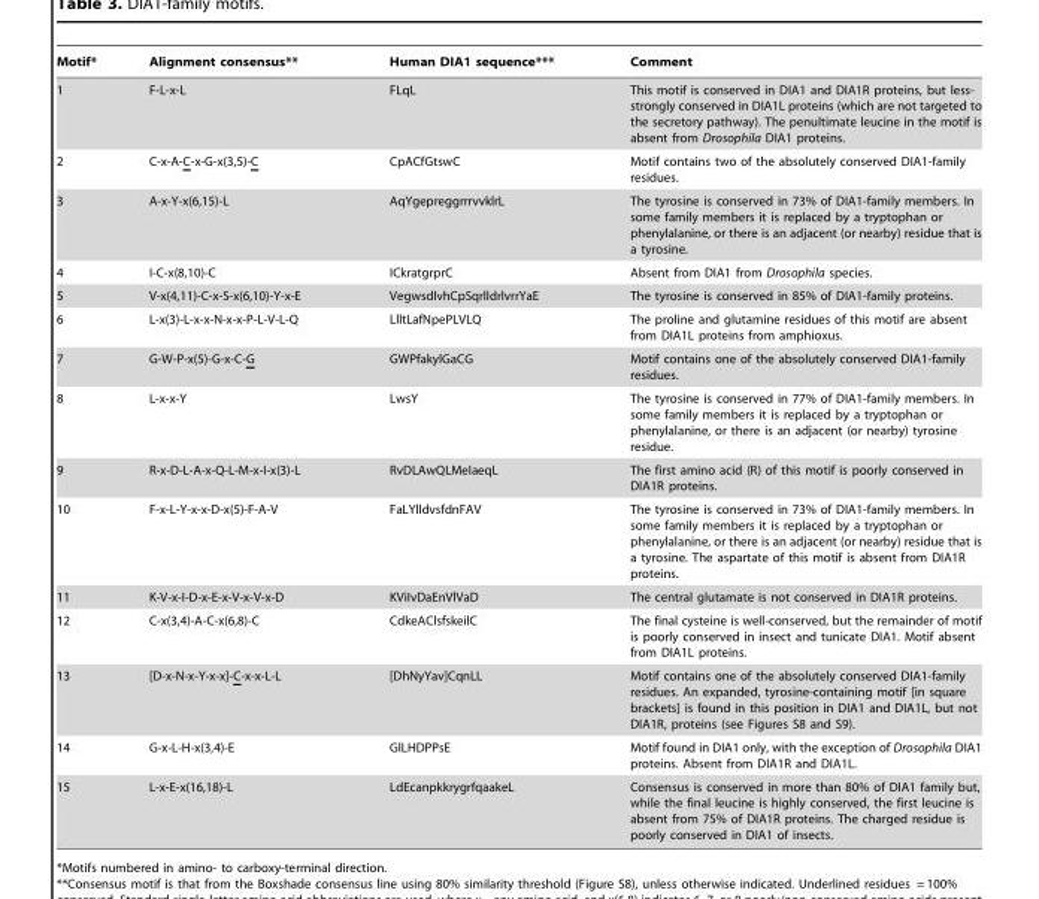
<table><thead><tr><td>Motif*</td><td>Alignment consensus**</td><td>Human DIA1 sequence***</td><td>Comment</td></tr></thead><tbody><tr><td>1</td><td>F-L-x-L</td><td>FLqL</td><td>This motif is conserved in DIA1 and DIA1R proteins, but less- strongly conserved in DIA1L proteins (which are not targeted to the secretory pathway). The penultimate leucine in the motif is absent from Drosophila DIA1 proteins.</td></tr><tr><td>2</td><td>C-x-A-C-x-G-x(3,5)-C</td><td>CpACfGtswC</td><td>Motif contains two of the absolutely conserved DIA1-family residues.</td></tr><tr><td>3</td><td>A-x-Y-x(6,15)-L</td><td>AqYgepreggrrrvvklrL</td><td>The tyrosine is conserved in 73% of DIA1-family members. In some family members it is replaced by a tryptophan or phenylalanine, or there is an adjacent (or nearby) residue that is a tyrosine.</td></tr><tr><td>4</td><td>I-C-x(8,10)-C</td><td>ICkratgrprC</td><td>Absent from DIA1 from Drosophila species.</td></tr><tr><td>5</td><td>V-x(4,11)-C-x-S-x(6,10)-Y-x-E</td><td>VegwsdlvhCpSqrlldrlvrrYaE</td><td>The tyrosine is conserved in 85% of DIA1-family proteins.</td></tr><tr><td>6</td><td>L-x(3)-L-x-x-N-x-x-P-L-V-L-Q</td><td>LlltLafNpePLVLQ</td><td>The proline and glutamine residues of this motif are absent from DIA1L proteins from amphioxus.</td></tr><tr><td>7</td><td>G-W-P-x(5)-G-x-C-G</td><td>GWPfakylGaCG</td><td>Motif contains one of the absolutely conserved DIA1-family residues.</td></tr><tr><td>8</td><td>L-x-x-Y</td><td>LwsY</td><td>The tyrosine is conserved in 77% of DIA1-family members. In some family members it is replaced by a tryptophan or phenylalanine, or there is an adjacent (or nearby) tyrosine residue.</td></tr><tr><td>9</td><td>R-x-D-L-A-x-Q-L-M-x-I-x(3)-L</td><td>RvDLAwQLMeIaeqL</td><td>The first amino acid (R) of this motif is poorly conserved in DIA1R proteins.</td></tr><tr><td>10</td><td>F-x-L-Y-x-x-D-x(5)-F-A-V</td><td>FaLYlldvsfdnFAV</td><td>The tyrosine is conserved in 73% of DIA1-family members. In some family members it is replaced by a tryptophan or phenylalanine, or there is an adjacent (or nearby) residue that is a tyrosine. The aspartate of this motif is absent from DIA1R proteins.</td></tr><tr><td>11</td><td>K-V-x-I-D-x-E-x-V-x-V-x-D</td><td>KViIvDaEnVlVaD</td><td>The central glutamate is not conserved in DIA1R proteins.</td></tr><tr><td>12</td><td>C-x(3,4)-A-C-x(6,8)-C</td><td>CdkeAClsfskeilC</td><td>The final cysteine is well-conserved, but the remainder of motif is poorly conserved in insect and tunicate DIA1. Motif absent from DIA1L proteins.</td></tr><tr><td>13</td><td>[D-x-N-x-Y-x-x]-C-x-x-L-L</td><td>[DhNyYav]CqnLL</td><td>Motif contains one of the absolutely conserved DIA1-family residues. An expanded, tyrosine-containing motif [in square brackets] is found in this position in DIA1 and DIA1L, but not DIA1R, proteins (see Figures S8 and S9).</td></tr><tr><td>14</td><td>G-x-L-H-x(3,4)-E</td><td>GlLHDPPsE</td><td>Motif found in DIA1 only, with the exception of Drosophila DIA1 proteins. Absent from DIA1R and DIA1L.</td></tr><tr><td>15</td><td>L-x-E-x(16,18)-L</td><td>LdEcanpkkrygrfqaakeL</td><td>Consensus is conserved in more than 80% of DIA1 family but, while the final leucine is highly conserved, the first leucine is absent from 75% of DIA1R proteins. The charged residue is poorly conserved in DIA1 of insects.</td></tr></tbody></table>